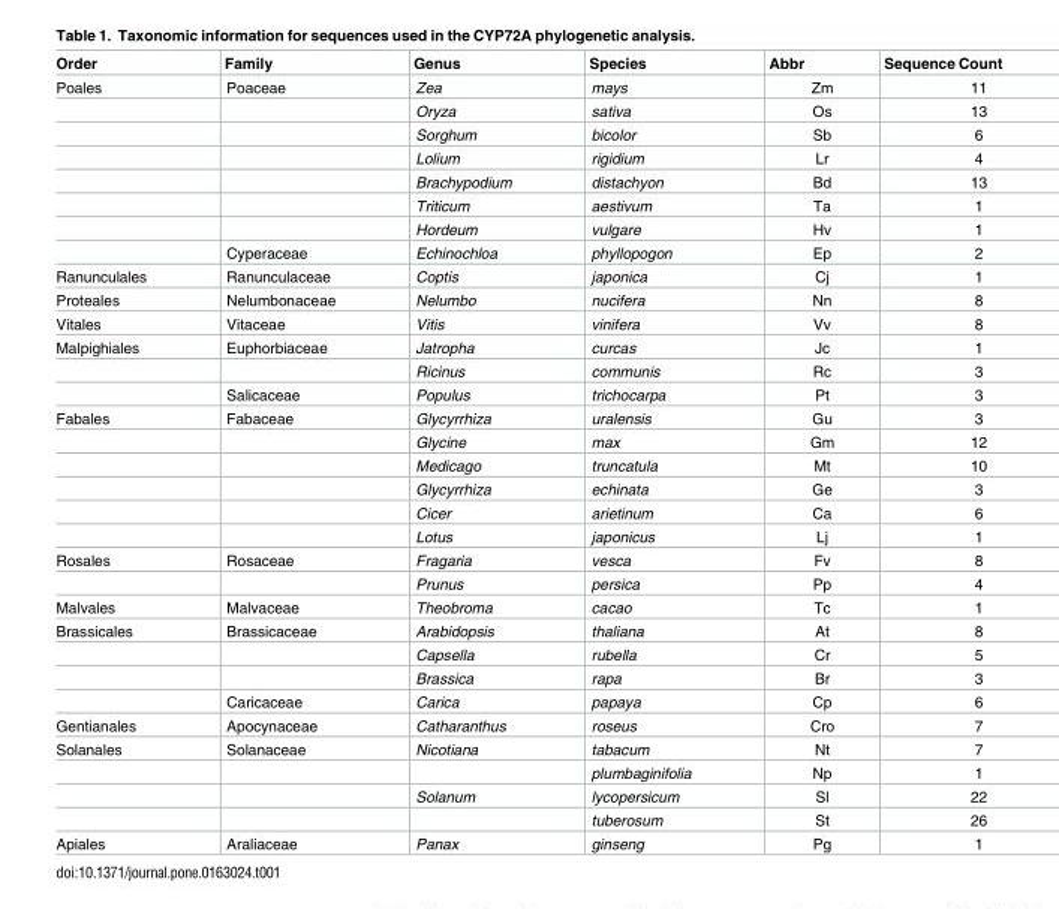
<table><thead><tr><td>Order</td><td>Family</td><td>Genus</td><td>Species</td><td>Abbr</td><td>Sequence Count</td></tr></thead><tbody><tr><td rowspan="8">Poales</td><td>Poaceae</td><td>Zea</td><td>mays</td><td>Zm</td><td>11</td></tr><tr><td></td><td>Oryza</td><td>sativa</td><td>Os</td><td>13</td></tr><tr><td></td><td>Sorghum</td><td>bicolor</td><td>Sb</td><td>6</td></tr><tr><td></td><td>Lolium</td><td>rigidium</td><td>Lr</td><td>4</td></tr><tr><td></td><td>Brachypodium</td><td>distachyon</td><td>Bd</td><td>13</td></tr><tr><td></td><td>Triticum</td><td>aestivum</td><td>Ta</td><td>1</td></tr><tr><td></td><td>Hordeum</td><td>vulgare</td><td>Hv</td><td>1</td></tr><tr><td>Cyperaceae</td><td>Echinochloa</td><td>phyllopogon</td><td>Ep</td><td>2</td></tr><tr><td>Ranunculales</td><td>Ranunculaceae</td><td>Coptis</td><td>japonica</td><td>Cj</td><td>1</td></tr><tr><td>Proteales</td><td>Nelumbonaceae</td><td>Nelumbo</td><td>nucifera</td><td>Nn</td><td>8</td></tr><tr><td>Vitales</td><td>Vitaceae</td><td>Vitis</td><td>vinifera</td><td>Vv</td><td>8</td></tr><tr><td rowspan="3">Malpighiales</td><td>Euphorbiaceae</td><td>Jatropha</td><td>curcas</td><td>Jc</td><td>1</td></tr><tr><td></td><td>Ricinus</td><td>communis</td><td>Rc</td><td>3</td></tr><tr><td>Salicaceae</td><td>Populus</td><td>trichocarpa</td><td>Pt</td><td>3</td></tr><tr><td rowspan="6">Fabales</td><td>Fabaceae</td><td>Glycyrrhiza</td><td>uralensis</td><td>Gu</td><td>3</td></tr><tr><td></td><td>Glycine</td><td>max</td><td>Gm</td><td>12</td></tr><tr><td></td><td>Medicago</td><td>truncatula</td><td>Mt</td><td>10</td></tr><tr><td></td><td>Glycyrrhiza</td><td>echinata</td><td>Ge</td><td>3</td></tr><tr><td></td><td>Cicer</td><td>arietinum</td><td>Ca</td><td>6</td></tr><tr><td></td><td>Lotus</td><td>japonicus</td><td>Lj</td><td>1</td></tr><tr><td rowspan="2">Rosales</td><td>Rosaceae</td><td>Fragaria</td><td>vesca</td><td>Fv</td><td>8</td></tr><tr><td></td><td>Prunus</td><td>persica</td><td>Pp</td><td>4</td></tr><tr><td>Malvales</td><td>Malvaceae</td><td>Theobroma</td><td>cacao</td><td>Tc</td><td>1</td></tr><tr><td rowspan="4">Brassicales</td><td>Brassicaceae</td><td>Arabidopsis</td><td>thaliana</td><td>At</td><td>8</td></tr><tr><td></td><td>Capsella</td><td>rubella</td><td>Cr</td><td>5</td></tr><tr><td></td><td>Brassica</td><td>rapa</td><td>Br</td><td>3</td></tr><tr><td>Caricaceae</td><td>Carica</td><td>papaya</td><td>Cp</td><td>6</td></tr><tr><td>Gentianales</td><td>Apocynaceae</td><td>Catharanthus</td><td>roseus</td><td>Cro</td><td>7</td></tr><tr><td rowspan="4">Solanales</td><td>Solanaceae</td><td>Nicotiana</td><td>tabacum</td><td>Nt</td><td>7</td></tr><tr><td></td><td></td><td>plumbaginifolia</td><td>Np</td><td>1</td></tr><tr><td></td><td>Solanum</td><td>lycopersicum</td><td>Sl</td><td>22</td></tr><tr><td></td><td></td><td>tuberosum</td><td>St</td><td>26</td></tr><tr><td>Apiales</td><td>Araliaceae</td><td>Panax</td><td>ginseng</td><td>Pg</td><td>1</td></tr></tbody></table>